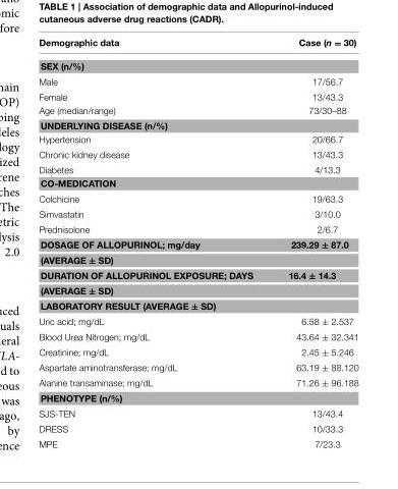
<table><thead><tr><td>Demographic data</td><td>Case (n = 30)</td></tr></thead><tbody><tr><td colspan="2">SEX (n/%)</td></tr><tr><td>Male</td><td>17/56.7</td></tr><tr><td>Female</td><td>13/43.3</td></tr><tr><td>Age (median/range)</td><td>73/30–88</td></tr><tr><td colspan="2">UNDERLYING DISEASE (n/%)</td></tr><tr><td>Hypertension</td><td>20/66.7</td></tr><tr><td>Chronic kidney disease</td><td>13/43.3</td></tr><tr><td>Diabetes</td><td>4/13.3</td></tr><tr><td colspan="2">CO-MEDICATION</td></tr><tr><td>Colchicine</td><td>19/63.3</td></tr><tr><td>Simvastatin</td><td>3/10.0</td></tr><tr><td>Prednisolone</td><td>2/6.7</td></tr><tr><td>DOSAGE OF ALLOPURINOL; mg/day</td><td>239.29 ± 87.0</td></tr><tr><td colspan="2">(AVERAGE ± SD)</td></tr><tr><td>DURATION OF ALLOPURINOL EXPOSURE; DAYS</td><td>16.4 ± 14.3</td></tr><tr><td colspan="2">(AVERAGE ± SD)</td></tr><tr><td colspan="2">LABORATORY RESULT (AVERAGE ± SD)</td></tr><tr><td>Uric acid; mg/dL</td><td>6.58 ± 2.537</td></tr><tr><td>Blood Urea Nitrogen; mg/dL</td><td>43.64 ± 32.341</td></tr><tr><td>Creatinine; mg/dL</td><td>2.45 ± 5.246</td></tr><tr><td>Aspartate aminotransferase; mg/dL</td><td>63.19 ± 88.120</td></tr><tr><td>Alanine transaminase; mg/dL</td><td>71.26 ± 96.188</td></tr><tr><td colspan="2">PHENOTYPE (n/%)</td></tr><tr><td>SJS-TEN</td><td>13/43.4</td></tr><tr><td>DRESS</td><td>10/33.3</td></tr><tr><td>MPE</td><td>7/23.3</td></tr></tbody></table>